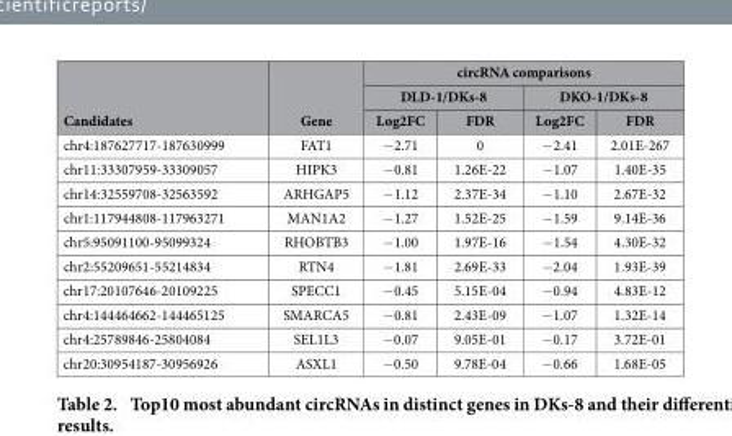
<table><thead><tr><td rowspan="3">Candidates</td><td rowspan="3">Gene</td><td colspan="4">circRNA comparisons</td></tr><tr><td colspan="2">DLD-1/DKs-8</td><td colspan="2">DKO-1/DKs-8</td></tr><tr><td>Log2FC</td><td>FDR</td><td>Log2FC</td><td>FDR</td></tr></thead><tbody><tr><td>chr4:187627717-187630999</td><td>FAT1</td><td>− 2.71</td><td>0</td><td>− 2.41</td><td>2.01E-267</td></tr><tr><td>chr11:33307959-33309057</td><td>HIPK3</td><td>− 0.81</td><td>1.26E-22</td><td>− 1.07</td><td>1.40E-35</td></tr><tr><td>chr14:32559708-32563592</td><td>ARHGAP5</td><td>− 1.12</td><td>2.37E-34</td><td>− 1.10</td><td>2.67E-32</td></tr><tr><td>chr1:117944808-117963271</td><td>MAN1A2</td><td>− 1.27</td><td>1.52E-25</td><td>− 1.59</td><td>9.14E-36</td></tr><tr><td>chr5:95091100-95099324</td><td>RHOBTB3</td><td>− 1.00</td><td>1.97E-16</td><td>− 1.54</td><td>4.30E-32</td></tr><tr><td>chr2:55209651-55214834</td><td>RTN4</td><td>− 1.81</td><td>2.69E-33</td><td>− 2.04</td><td>1.93E-39</td></tr><tr><td>chr17:20107646-20109225</td><td>SPECC1</td><td>− 0.45</td><td>5.15E-04</td><td>− 0.94</td><td>4.83E-12</td></tr><tr><td>chr4:144464662-144465125</td><td>SMARCA5</td><td>− 0.81</td><td>2.43E-09</td><td>− 1.07</td><td>1.32E-14</td></tr><tr><td>chr4:25789846-25804084</td><td>SEL1L3</td><td>− 0.07</td><td>9.05E-01</td><td>− 0.17</td><td>3.72E-01</td></tr><tr><td>chr20:30954187-30956926</td><td>ASXL1</td><td>− 0.50</td><td>9.78E-04</td><td>− 0.66</td><td>1.68E-05</td></tr></tbody></table>